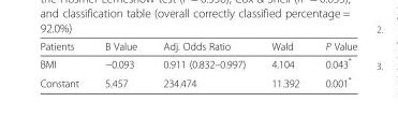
<table><thead><tr><td>Patients</td><td>B Value</td><td>Adj. Odds Ratio</td><td>Wald</td><td>P Value</td></tr></thead><tbody><tr><td>BMI</td><td>−0.093</td><td>0.911 (0.832–0.997)</td><td>4.104</td><td>0.043*</td></tr><tr><td>Constant</td><td>5.457</td><td>234.474</td><td>11.392</td><td>0.001*</td></tr></tbody></table>